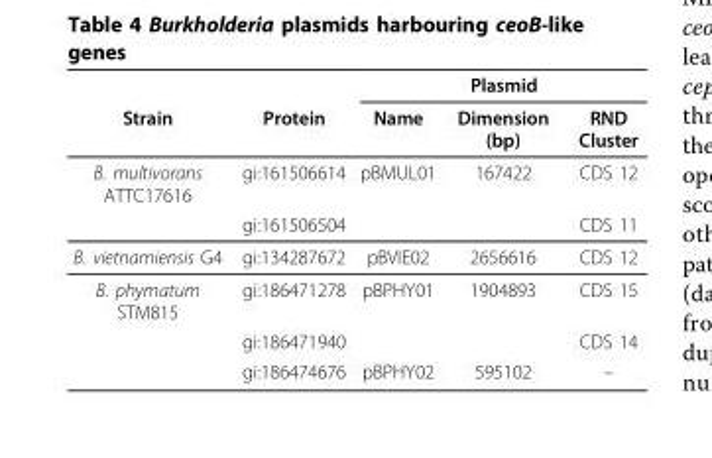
<table><thead><tr><td rowspan="2">Strain</td><td rowspan="2">Protein</td><td colspan="3">Plasmid</td></tr><tr><td>Name</td><td>Dimension (bp)</td><td>RND Cluster</td></tr></thead><tbody><tr><td rowspan="2">B. multivorans ATTC17616</td><td>gi:161506614</td><td>pBMUL01</td><td>167422</td><td>CDS 12</td></tr><tr><td>gi:161506504</td><td></td><td></td><td>CDS 11</td></tr><tr><td>B. vietnamiensis G4</td><td>gi:134287672</td><td>pBVIE02</td><td>2656616</td><td>CDS 12</td></tr><tr><td rowspan="3">B. phymatum STM815</td><td>gi:186471278</td><td>pBPHY01</td><td>1904893</td><td>CDS 15</td></tr><tr><td>gi:186471940</td><td></td><td></td><td>CDS 14</td></tr><tr><td>gi:186474676</td><td>pBPHY02</td><td>595102</td><td>–</td></tr></tbody></table>